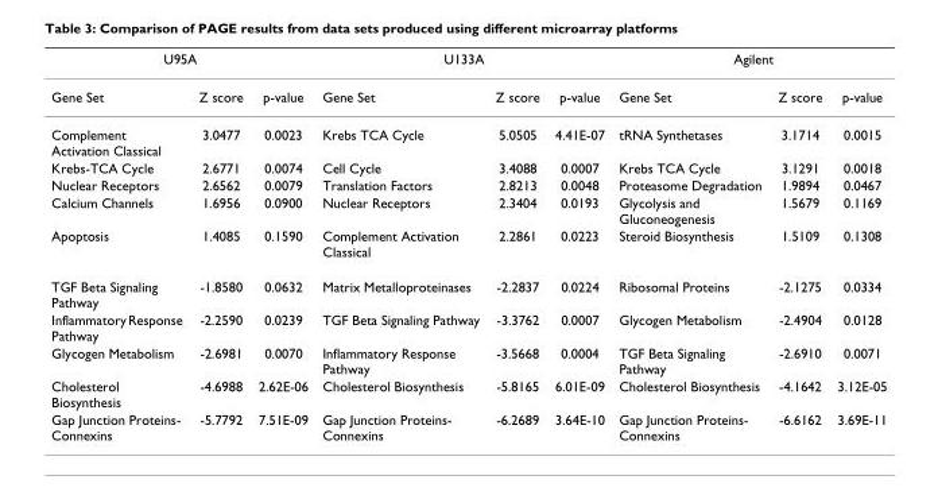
<table><thead><tr><td colspan="3">U95A</td><td colspan="3">U133A</td><td colspan="3">Agilent</td></tr><tr><td>Gene Set</td><td>Z score</td><td>p-value</td><td>Gene Set</td><td>Z score</td><td>p-value</td><td>Gene Set</td><td>Z score</td><td>p-value</td></tr></thead><tbody><tr><td>Complement Activation Classical</td><td>3.0477</td><td>0.0023</td><td>Krebs TCA Cycle</td><td>5.0505</td><td>4.41E-07</td><td>tRNA Synthetases</td><td>3.1714</td><td>0.0015</td></tr><tr><td>Krebs-TCA Cycle</td><td>2.6771</td><td>0.0074</td><td>Cell Cycle</td><td>3.4088</td><td>0.0007</td><td>Krebs TCA Cycle</td><td>3.1291</td><td>0.0018</td></tr><tr><td>Nuclear Receptors</td><td>2.6562</td><td>0.0079</td><td>Translation Factors</td><td>2.8213</td><td>0.0048</td><td>Proteasome Degradation</td><td>1.9894</td><td>0.0467</td></tr><tr><td>Calcium Channels</td><td>1.6956</td><td>0.0900</td><td>Nuclear Receptors</td><td>2.3404</td><td>0.0193</td><td>Glycolysis and Gluconeogenesis</td><td>1.5679</td><td>0.1169</td></tr><tr><td>Apoptosis</td><td>1.4085</td><td>0.1590</td><td>Complement Activation Classical</td><td>2.2861</td><td>0.0223</td><td>Steroid Biosynthesis</td><td>1.5109</td><td>0.1308</td></tr><tr><td>TGF Beta Signaling Pathway</td><td>-1.8580</td><td>0.0632</td><td>Matrix Metalloproteinases</td><td>-2.2837</td><td>0.0224</td><td>Ribosomal Proteins</td><td>-2.1275</td><td>0.0334</td></tr><tr><td>Inflammatory Response Pathway</td><td>-2.2590</td><td>0.0239</td><td>TGF Beta Signaling Pathway</td><td>-3.3762</td><td>0.0007</td><td>Glycogen Metabolism</td><td>-2.4904</td><td>0.0128</td></tr><tr><td>Glycogen Metabolism</td><td>-2.6981</td><td>0.0070</td><td>Inflammatory Response Pathway</td><td>-3.5668</td><td>0.0004</td><td>TGF Beta Signaling Pathway</td><td>-2.6910</td><td>0.0071</td></tr><tr><td>Cholesterol Biosynthesis</td><td>-4.6988</td><td>2.62E-06</td><td>Cholesterol Biosynthesis</td><td>-5.8165</td><td>6.01E-09</td><td>Cholesterol Biosynthesis</td><td>-4.1642</td><td>3.12E-05</td></tr><tr><td>Gap Junction Proteins- Connexins</td><td>-5.7792</td><td>7.51E-09</td><td>Gap Junction Proteins- Connexins</td><td>-6.2689</td><td>3.64E-10</td><td>Gap Junction Proteins- Connexins</td><td>-6.6162</td><td>3.69E-11</td></tr></tbody></table>